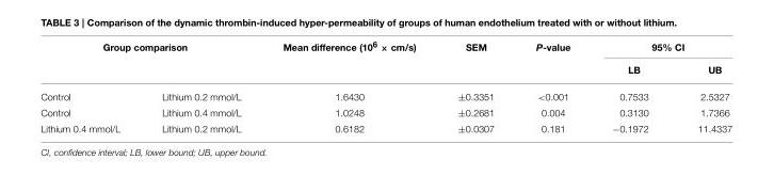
<table><thead><tr><td colspan="2">Group comparison</td><td rowspan="2">Mean difference (10<sup>6</sup> × cm/s)</td><td rowspan="2">SEM</td><td rowspan="2">P-value</td><td colspan="2">95% CI</td></tr><tr><td></td><td></td><td>LB</td><td>UB</td></tr></thead><tbody><tr><td>Control</td><td>Lithium 0.2 mmol/L</td><td>1.6430</td><td>±0.3351</td><td>&lt;0.001</td><td>0.7533</td><td>2.5327</td></tr><tr><td>Control</td><td>Lithium 0.4 mmol/L</td><td>1.0248</td><td>±0.2681</td><td>0.004</td><td>0.3130</td><td>1.7366</td></tr><tr><td>Lithium 0.4 mmol/L</td><td>Lithium 0.2 mmol/L</td><td>0.6182</td><td>±0.0307</td><td>0.181</td><td>−0.1972</td><td>11.4337</td></tr></tbody></table>